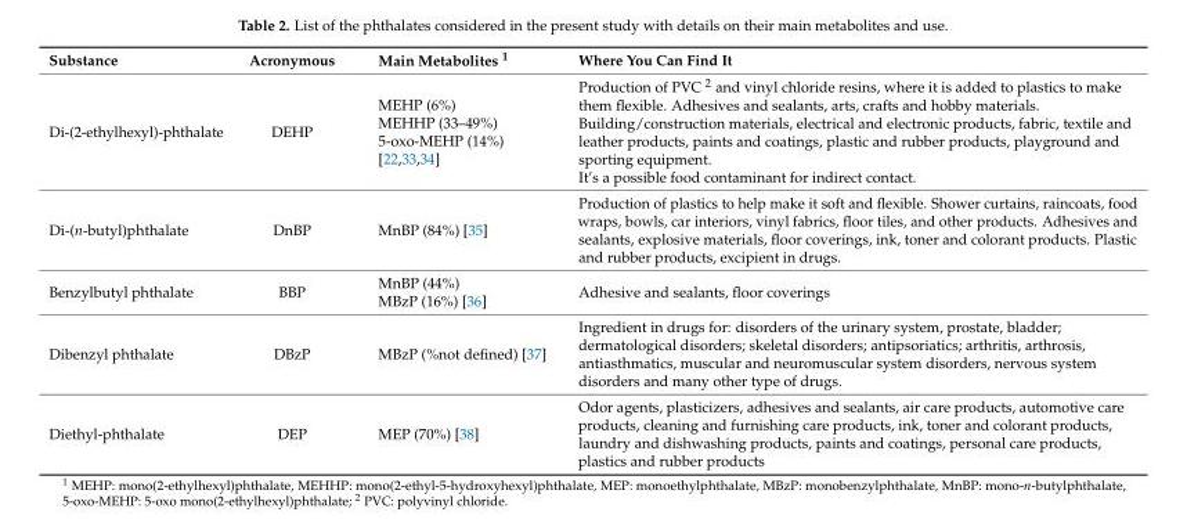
<table><thead><tr><td>Substance</td><td>Acronymous</td><td>Main Metabolites <sup>1</sup></td><td>Where You Can Find It</td></tr></thead><tbody><tr><td>Di-(2-ethylhexyl)-phthalate</td><td>DEHP</td><td>MEHP (6%) MEHHP (33–49%) 5-oxo-MEHP (14%) [22,33,34]</td><td>Production of PVC <sup>2</sup> and vinyl chloride resins, where it is added to plastics to make them flexible. Adhesives and sealants, arts, crafts and hobby materials. Building/construction materials, electrical and electronic products, fabric, textile and leather products, paints and coatings, plastic and rubber products, playground and sporting equipment. It’s a possible food contaminant for indirect contact.</td></tr><tr><td>Di-(n-butyl)phthalate</td><td>DnBP</td><td>MnBP (84%) [35]</td><td>Production of plastics to help make it soft and flexible. Shower curtains, raincoats, food wraps, bowls, car interiors, vinyl fabrics, floor tiles, and other products. Adhesives and sealants, explosive materials, floor coverings, ink, toner and colorant products. Plastic and rubber products, excipient in drugs.</td></tr><tr><td>Benzylbutyl phthalate</td><td>BBP</td><td>MnBP (44%) MBzP (16%) [36]</td><td>Adhesive and sealants, floor coverings</td></tr><tr><td>Dibenzyl phthalate</td><td>DBzP</td><td>MBzP (%not defined) [37]</td><td>Ingredient in drugs for: disorders of the urinary system, prostate, bladder; dermatological disorders; skeletal disorders; antipsoriatics; arthritis, arthrosis, antiasthmatics, muscular and neuromuscular system disorders, nervous system disorders and many other type of drugs.</td></tr><tr><td>Diethyl-phthalate</td><td>DEP</td><td>MEP (70%) [38]</td><td>Odor agents, plasticizers, adhesives and sealants, air care products, automotive care products, cleaning and furnishing care products, ink, toner and colorant products, laundry and dishwashing products, paints and coatings, personal care products, plastics and rubber products</td></tr></tbody></table>